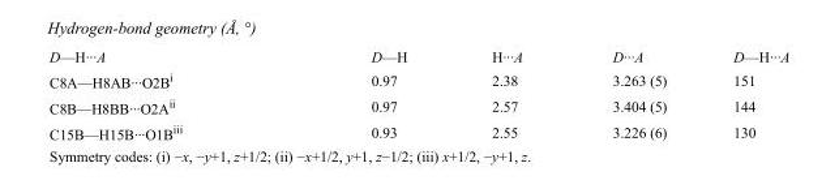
<table><tbody><tr><td>D—H···A</td><td>D—H</td><td>H···A</td><td>D···A</td><td>D—H···A</td></tr><tr><td>C8A—H8AB···O2B<sup>i</sup></td><td>0.97</td><td>2.38</td><td>3.263 (5)</td><td>151</td></tr><tr><td>C8B—H8BB···O2A<sup>ii</sup></td><td>0.97</td><td>2.57</td><td>3.404 (5)</td><td>144</td></tr><tr><td>C15B—H15B···O1B<sup>iii</sup></td><td>0.93</td><td>2.55</td><td>3.226 (6)</td><td>130</td></tr></tbody></table>